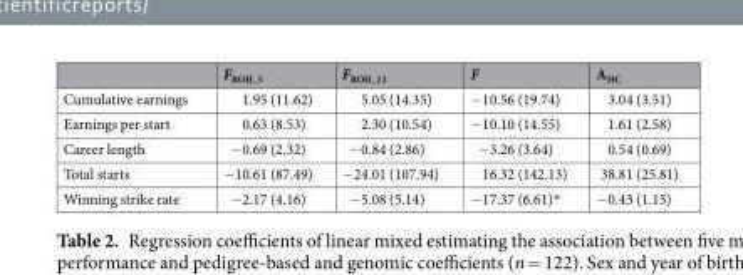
<table><thead><tr><td></td><td>F<sub>ROH_5</sub></td><td>F<sub>ROH_12</sub></td><td>F</td><td>A<sub>HC</sub></td></tr></thead><tbody><tr><td>Cumulative earnings</td><td>1.95 (11.62)</td><td>5.05 (14.35)</td><td>−10.56 (19.74)</td><td>3.04 (3.51)</td></tr><tr><td>Earnings per start</td><td>0.63 (8.53)</td><td>2.30 (10.54)</td><td>−10.10 (14.55)</td><td>1.61 (2.58)</td></tr><tr><td>Career length</td><td>−0.69 (2.32)</td><td>−0.84 (2.86)</td><td>−3.26 (3.64)</td><td>0.54 (0.69)</td></tr><tr><td>Total starts</td><td>−10.61 (87.49)</td><td>−24.01 (107.94)</td><td>16.32 (142.13)</td><td>38.81 (25.81)</td></tr><tr><td>Winning strike rate</td><td>−2.17 (4.16)</td><td>−5.08 (5.14)</td><td>−17.37 (6.61)*</td><td>−0.43 (1.15)</td></tr></tbody></table>